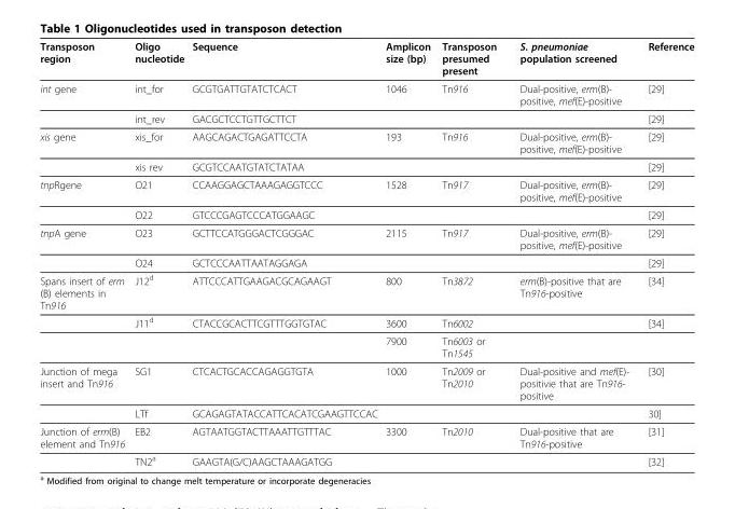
<table><thead><tr><td>Transposon region</td><td>Oligo nucleotide</td><td>Sequence</td><td>Amplicon size (bp)</td><td>Transposon presumed present</td><td>S. pneumoniae population screened</td><td>Reference</td></tr></thead><tbody><tr><td rowspan="2">int gene</td><td>int_for</td><td>GCGTGATTGTATCTCACT</td><td>1046</td><td>Tn916</td><td>Dual-positive, erm(B)- positive, mef(E)-positive</td><td>[29]</td></tr><tr><td>int_rev</td><td>GACGCTCCTGTTGCTTCT</td><td></td><td></td><td></td><td>[29]</td></tr><tr><td rowspan="2">xis gene</td><td>xis_for</td><td>AAGCAGACTGAGATTCCTA</td><td>193</td><td>Tn916</td><td>Dual-positive, erm(B)- positive, mef(E)-positive</td><td>[29]</td></tr><tr><td>xis rev</td><td>GCGTCCAATGTATCTATAA</td><td></td><td></td><td></td><td>[29]</td></tr><tr><td rowspan="2">tnpRgene</td><td>O21</td><td>CCAAGGAGCTAAAGAGGTCCC</td><td>1528</td><td>Tn917</td><td>Dual-positive, erm(B)- positive, mef(E)-positive</td><td>[29]</td></tr><tr><td>O22</td><td>GTCCCGAGTCCCATGGAAGC</td><td></td><td></td><td></td><td>[29]</td></tr><tr><td rowspan="2">tnpA gene</td><td>O23</td><td>GCTTCCATGGGACTCGGGAC</td><td>2115</td><td>Tn917</td><td>Dual-positive, erm(B)- positive, mef(E)-positive</td><td>[29]</td></tr><tr><td>O24</td><td>GCTCCCAATTAATAGGAGA</td><td></td><td></td><td></td><td>[29]</td></tr><tr><td rowspan="3">Spans insert of erm (B) elements in Tn916</td><td>J12<sup>d</sup></td><td>ATTCCCATTGAAGACGCAGAAGT</td><td>800</td><td>Tn3872</td><td>erm(B)-positive that are Tn916-positive</td><td>[34]</td></tr><tr><td>J11<sup>d</sup></td><td>CTACCGCACTTCGTTTGGTGTAC</td><td>3600</td><td>Tn6002</td><td></td><td>[34]</td></tr><tr><td></td><td></td><td>7900</td><td>Tn6003 or Tn1545</td><td></td><td></td></tr><tr><td rowspan="2">Junction of mega insert and Tn916</td><td>SG1</td><td>CTCACTGCACCAGAGGTGTA</td><td>1000</td><td>Tn2009 or Tn2010</td><td>Dual-positive and mef(E)- positivie that are Tn916- positive</td><td>[30]</td></tr><tr><td>LTf</td><td>GCAGAGTATACCATTCACATCGAAGTTCCAC</td><td></td><td></td><td></td><td>30]</td></tr><tr><td rowspan="2">Junction of erm(B) element and Tn916</td><td>EB2</td><td>AGTAATGGTACTTAAATTGTTTAC</td><td>3300</td><td>Tn2010</td><td>Dual-positive that are Tn916-positive</td><td>[31]</td></tr><tr><td>TN2<sup>a</sup></td><td>GAAGTA(G/C)AAGCTAAAGATGG</td><td></td><td></td><td></td><td>[32]</td></tr></tbody></table>